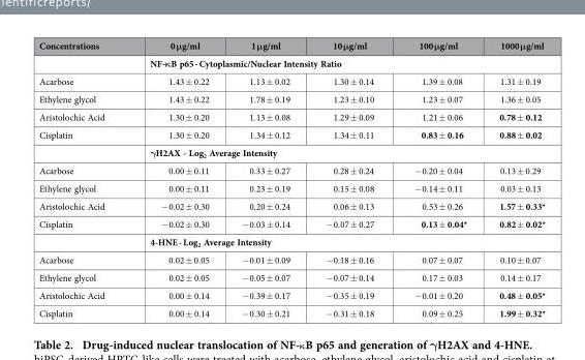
<table><thead><tr><td>Concentrations</td><td>0 μg/ml</td><td>1 μg/ml</td><td>10 μg/ml</td><td>100 μg/ml</td><td>1000 μg/ml</td></tr></thead><tbody><tr><td></td><td colspan="5">NF-κB p65 - Cytoplasmic/Nuclear Intensity Ratio</td></tr><tr><td>Acarbose</td><td>1.43 ± 0.22</td><td>1.13 ± 0.02</td><td>1.30 ± 0.14</td><td>1.39 ± 0.08</td><td>1.31 ± 0.19</td></tr><tr><td>Ethylene glycol</td><td>1.43 ± 0.22</td><td>1.78 ± 0.19</td><td>1.23 ± 0.10</td><td>1.23 ± 0.07</td><td>1.36 ± 0.05</td></tr><tr><td>Aristolochic Acid</td><td>1.30 ± 0.20</td><td>1.13 ± 0.08</td><td>1.29 ± 0.09</td><td>1.21 ± 0.06</td><td>0.78 ± 0.12</td></tr><tr><td rowspan="2">Cisplatin</td><td>1.30 ± 0.20</td><td>1.34 ± 0.12</td><td>1.34 ± 0.11</td><td>0.83 ± 0.16</td><td>0.88 ± 0.02</td></tr><tr><td colspan="5">γH2AX - Log<sub>2</sub> Average Intensity</td></tr><tr><td>Acarbose</td><td>0.00 ± 0.11</td><td>0.33 ± 0.27</td><td>0.28 ± 0.24</td><td>− 0.20 ± 0.04</td><td>0.13 ± 0.29</td></tr><tr><td>Ethylene glycol</td><td>0.00 ± 0.11</td><td>0.23 ± 0.19</td><td>0.15 ± 0.08</td><td>− 0.14 ± 0.11</td><td>0.03 ± 0.13</td></tr><tr><td>Aristolochic Acid</td><td>− 0.02 ± 0.30</td><td>0.20 ± 0.24</td><td>0.06 ± 0.13</td><td>0.53 ± 0.26</td><td>1.57 ± 0.33*</td></tr><tr><td rowspan="2">Cisplatin</td><td>− 0.02 ± 0.30</td><td>− 0.03 ± 0.14</td><td>− 0.07 ± 0.27</td><td>0.13 ± 0.04*</td><td>0.82 ± 0.02*</td></tr><tr><td colspan="5">4-HNE - Log<sub>2</sub> Average Intensity</td></tr><tr><td>Acarbose</td><td>0.02 ± 0.05</td><td>− 0.01 ± 0.09</td><td>− 0.18 ± 0.16</td><td>0.07 ± 0.07</td><td>0.10 ± 0.07</td></tr><tr><td>Ethylene glycol</td><td>0.02 ± 0.05</td><td>− 0.05 ± 0.07</td><td>− 0.07 ± 0.14</td><td>0.17 ± 0.03</td><td>0.14 ± 0.17</td></tr><tr><td>Aristolochic Acid</td><td>0.00 ± 0.14</td><td>− 0.39 ± 0.17</td><td>− 0.35 ± 0.19</td><td>− 0.01 ± 0.20</td><td>0.48 ± 0.05*</td></tr><tr><td>Cisplatin</td><td>0.00 ± 0.14</td><td>− 0.30 ± 0.21</td><td>− 0.31 ± 0.18</td><td>0.09 ± 0.25</td><td>1.99 ± 0.32*</td></tr></tbody></table>